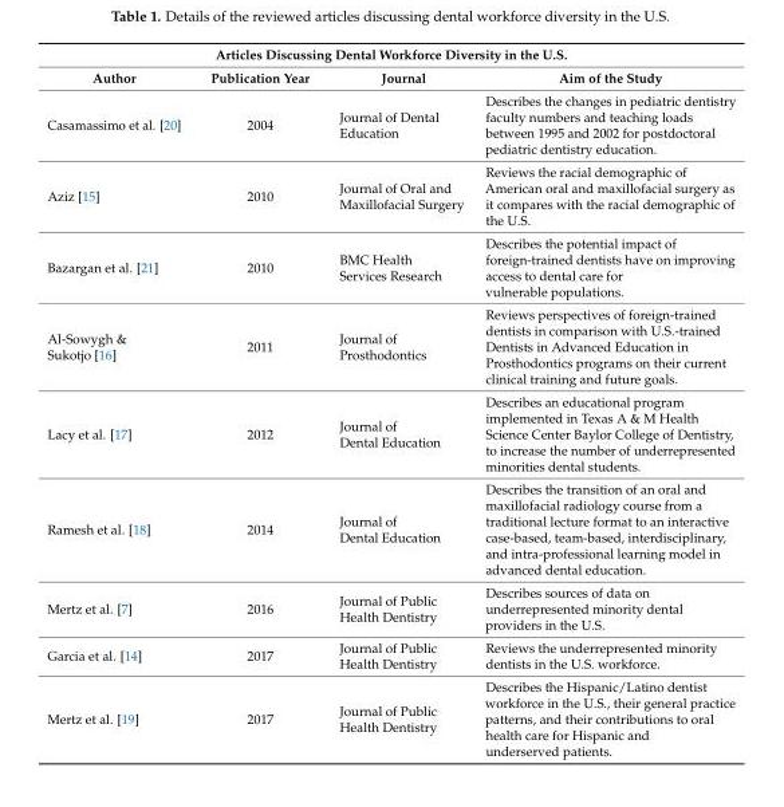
<table><thead><tr><td colspan="4">Articles Discussing Dental Workforce Diversity in the U.S.</td></tr><tr><td>Author</td><td>Publication Year</td><td>Journal</td><td>Aim of the Study</td></tr></thead><tbody><tr><td>Casamassimo et al. [20]</td><td>2004</td><td>Journal of Dental Education</td><td>Describes the changes in pediatric dentistry faculty numbers and teaching loads between 1995 and 2002 for postdoctoral pediatric dentistry education.</td></tr><tr><td>Aziz [15]</td><td>2010</td><td>Journal of Oral and Maxillofacial Surgery</td><td>Reviews the racial demographic of American oral and maxillofacial surgery as it compares with the racial demographic of the U.S.</td></tr><tr><td>Bazargan et al. [21]</td><td>2010</td><td>BMC Health Services Research</td><td>Describes the potential impact of foreign-trained dentists have on improving access to dental care for vulnerable populations.</td></tr><tr><td>Al-Sowygh &amp; Sukotjo [16]</td><td>2011</td><td>Journal of Prosthodontics</td><td>Reviews perspectives of foreign-trained dentists in comparison with U.S.-trained Dentists in Advanced Education in Prosthodontics programs on their current clinical training and future goals.</td></tr><tr><td>Lacy et al. [17]</td><td>2012</td><td>Journal of Dental Education</td><td>Describes an educational program implemented in Texas A &amp; M Health Science Center Baylor College of Dentistry, to increase the number of underrepresented minorities dental students.</td></tr><tr><td>Ramesh et al. [18]</td><td>2014</td><td>Journal of Dental Education</td><td>Describes the transition of an oral and maxillofacial radiology course from a traditional lecture format to an interactive case-based, team-based, interdisciplinary, and intra-professional learning model in advanced dental education.</td></tr><tr><td>Mertz et al. [7]</td><td>2016</td><td>Journal of Public Health Dentistry</td><td>Describes sources of data on underrepresented minority dental providers in the U.S.</td></tr><tr><td>Garcia et al. [14]</td><td>2017</td><td>Journal of Public Health Dentistry</td><td>Reviews the underrepresented minority dentists in the U.S. workforce.</td></tr><tr><td>Mertz et al. [19]</td><td>2017</td><td>Journal of Public Health Dentistry</td><td>Describes the Hispanic/Latino dentist workforce in the U.S., their general practice patterns, and their contributions to oral health care for Hispanic and underserved patients.</td></tr></tbody></table>